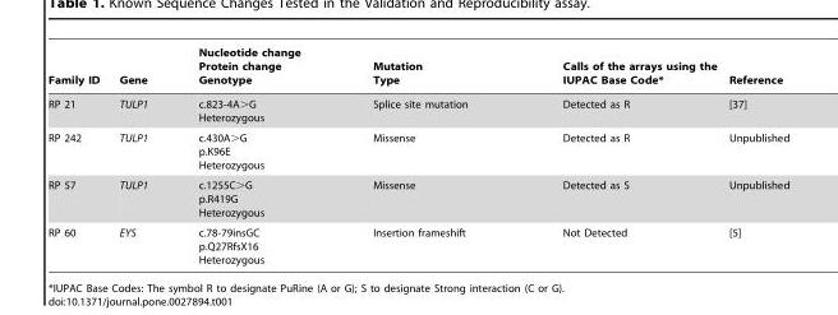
<table><thead><tr><td>Family ID</td><td>Gene</td><td>Nucleotide change Protein change Genotype</td><td>Mutation Type</td><td>Calls of the arrays using the IUPAC Base Code*</td><td>Reference</td></tr></thead><tbody><tr><td>RP 21</td><td>TULP1</td><td>c.823-4A&gt;G Heterozygous</td><td>Splice site mutation</td><td>Detected as R</td><td>[37]</td></tr><tr><td>RP 242</td><td>TULP1</td><td>c.430A&gt;G p.K96E Heterozygous</td><td>Missense</td><td>Detected as R</td><td>Unpublished</td></tr><tr><td>RP 57</td><td>TULP1</td><td>c.1255C&gt;G p.R419G Heterozygous</td><td>Missense</td><td>Detected as S</td><td>Unpublished</td></tr><tr><td>RP 60</td><td>EYS</td><td>c.78-79insGC p.Q27RfsX16 Heterozygous</td><td>Insertion frameshift</td><td>Not Detected</td><td>[5]</td></tr></tbody></table>